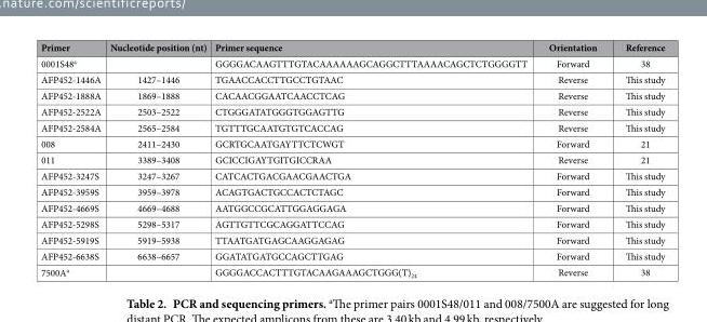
<table><thead><tr><td>Primer</td><td>Nucleotide position (nt)</td><td>Primer sequence</td><td>Orientation</td><td>Reference</td></tr></thead><tbody><tr><td>0001S48<sup>a</sup></td><td></td><td>GGGGACAAGTTTGTACAAAAAAGCAGGCTTTAAAACAGCTCTGGGGTT</td><td>Forward</td><td>38</td></tr><tr><td>AFP452-1446A</td><td>1427–1446</td><td>TGAACCACCTTGCCTGTAAC</td><td>Reverse</td><td>This study</td></tr><tr><td>AFP452-1888A</td><td>1869–1888</td><td>CACAACGGAATCAACCTCAG</td><td>Reverse</td><td>This study</td></tr><tr><td>AFP452-2522A</td><td>2503–2522</td><td>CTGGGATATGGGTGGAGTTG</td><td>Reverse</td><td>This study</td></tr><tr><td>AFP452-2584A</td><td>2565–2584</td><td>TGTTTGCAATGTGTCACCAG</td><td>Reverse</td><td>This study</td></tr><tr><td>008</td><td>2411–2430</td><td>GCRTGCAATGAYTTCTCWGT</td><td>Forward</td><td>21</td></tr><tr><td>011</td><td>3389–3408</td><td>GCICCIGAYTGITGICCRAA</td><td>Reverse</td><td>21</td></tr><tr><td>AFP452-3247S</td><td>3247–3267</td><td>CATCACTGACGAACGAACTGA</td><td>Forward</td><td>This study</td></tr><tr><td>AFP452-3959S</td><td>3959–3978</td><td>ACAGTGACTGCCACTCTAGC</td><td>Forward</td><td>This study</td></tr><tr><td>AFP452-4669S</td><td>4669–4688</td><td>AATGGCCGCATTGGAGGAGA</td><td>Forward</td><td>This study</td></tr><tr><td>AFP452-5298S</td><td>5298–5317</td><td>AGTTGTTCGCAGGATTCCAG</td><td>Forward</td><td>This study</td></tr><tr><td>AFP452-5919S</td><td>5919–5938</td><td>TTAATGATGAGCAAGGAGAG</td><td>Forward</td><td>This study</td></tr><tr><td>AFP452-6638S</td><td>6638–6657</td><td>GGATATGATGCCAGCTTGAG</td><td>Forward</td><td>This study</td></tr><tr><td>7500A<sup>a</sup></td><td></td><td>GGGGACCACTTTGTACAAGAAAGCTGGG(T)<sub>24</sub></td><td>Reverse</td><td>38</td></tr></tbody></table>